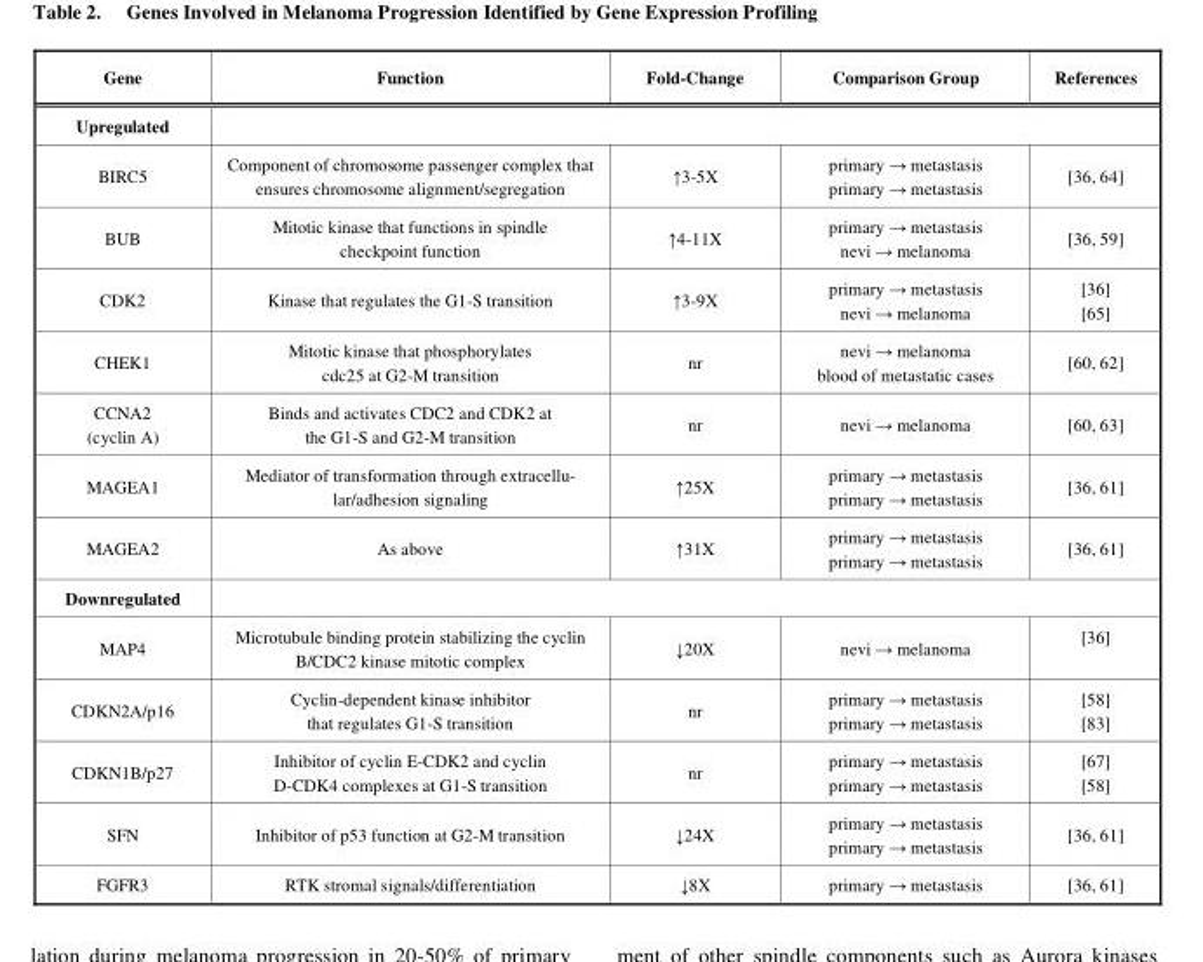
<table><thead><tr><td>Gene</td><td>Function</td><td>Fold-Change</td><td>Comparison Group</td><td>References</td></tr></thead><tbody><tr><td colspan="5">Upregulated</td></tr><tr><td>BIRC5</td><td>Component of chromosome passenger complex that ensures chromosome alignment/segregation</td><td>↑3-5X</td><td>primary → metastasis primary → metastasis</td><td>[36, 64]</td></tr><tr><td>BUB</td><td>Mitotic kinase that functions in spindle checkpoint function</td><td>↑4-11X</td><td>primary → metastasis nevi → melanoma</td><td>[36, 59]</td></tr><tr><td>CDK2</td><td>Kinase that regulates the G1-S transition</td><td>↑3-9X</td><td>primary → metastasis nevi → melanoma</td><td>[36] [65]</td></tr><tr><td>CHEK1</td><td>Mitotic kinase that phosphorylates cdc25 at G2-M transition</td><td>nr</td><td>nevi → melanoma blood of metastatic cases</td><td>[60, 62]</td></tr><tr><td>CCNA2 (cyclin A)</td><td>Binds and activates CDC2 and CDK2 at the G1-S and G2-M transition</td><td>nr</td><td>nevi → melanoma</td><td>[60, 63]</td></tr><tr><td>MAGEA1</td><td>Mediator of transformation through extracellu- lar/adhesion signaling</td><td>↑25X</td><td>primary → metastasis primary → metastasis</td><td>[36, 61]</td></tr><tr><td>MAGEA2</td><td>As above</td><td>↑31X</td><td>primary → metastasis primary → metastasis</td><td>[36, 61]</td></tr><tr><td colspan="5">Downregulated</td></tr><tr><td>MAP4</td><td>Microtubule binding protein stabilizing the cyclin B/CDC2 kinase mitotic complex</td><td>↓20X</td><td>nevi → melanoma</td><td>[36]</td></tr><tr><td>CDKN2A/p16</td><td>Cyclin-dependent kinase inhibitor that regulates G1-S transition</td><td>nr</td><td>primary → metastasis primary → metastasis</td><td>[58] [83]</td></tr><tr><td>CDKN1B/p27</td><td>Inhibitor of cyclin E-CDK2 and cyclin D-CDK4 complexes at G1-S transition</td><td>nr</td><td>primary → metastasis primary → metastasis</td><td>[67] [58]</td></tr><tr><td>SFN</td><td>Inhibitor of p53 function at G2-M transition</td><td>↓24X</td><td>primary → metastasis primary → metastasis</td><td>[36, 61]</td></tr><tr><td>FGFR3</td><td>RTK stromal signals/differentiation</td><td>↓8X</td><td>primary → metastasis</td><td>[36, 61]</td></tr></tbody></table>